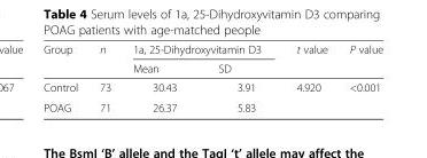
<table><thead><tr><td rowspan="2">Group</td><td rowspan="2">n</td><td colspan="2">1a, 25-Dihydroxyvitamin D3</td><td rowspan="2">t value</td><td rowspan="2">P value</td></tr><tr><td>Mean</td><td>SD</td></tr></thead><tbody><tr><td>Control</td><td>73</td><td>30.43</td><td>3.91</td><td rowspan="2">4.920</td><td rowspan="2">&lt;0.001</td></tr><tr><td>POAG</td><td>71</td><td>26.37</td><td>5.83</td></tr></tbody></table>